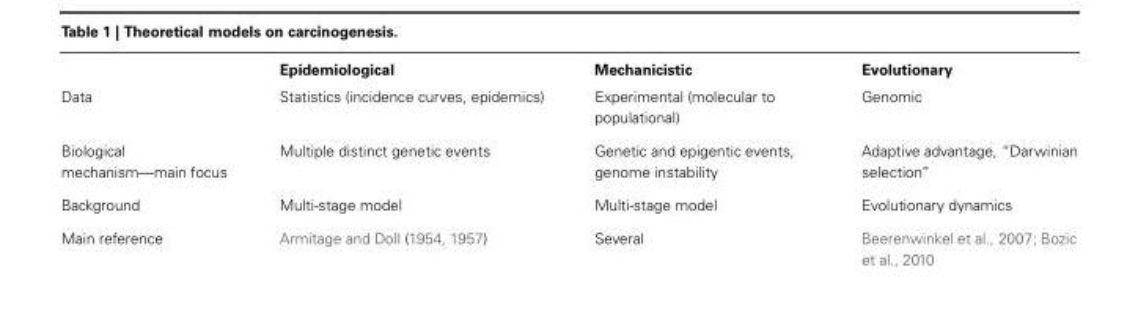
<table><thead><tr><td></td><td>Epidemiological</td><td>Mechanicistic</td><td>Evolutionary</td></tr></thead><tbody><tr><td>Data</td><td>Statistics (incidence curves, epidemics)</td><td>Experimental (molecular to populational)</td><td>Genomic</td></tr><tr><td>Biological mechanism—main focus</td><td>Multiple distinct genetic events</td><td>Genetic and epigentic events, genome instability</td><td>Adaptive advantage, “Darwinian selection”</td></tr><tr><td>Background</td><td>Multi-stage model</td><td>Multi-stage model</td><td>Evolutionary dynamics</td></tr><tr><td>Main reference</td><td>Armitage and Doll (1954, 1957)</td><td>Several</td><td>Beerenwinkel et al., 2007; Bozic et al., 2010</td></tr></tbody></table>